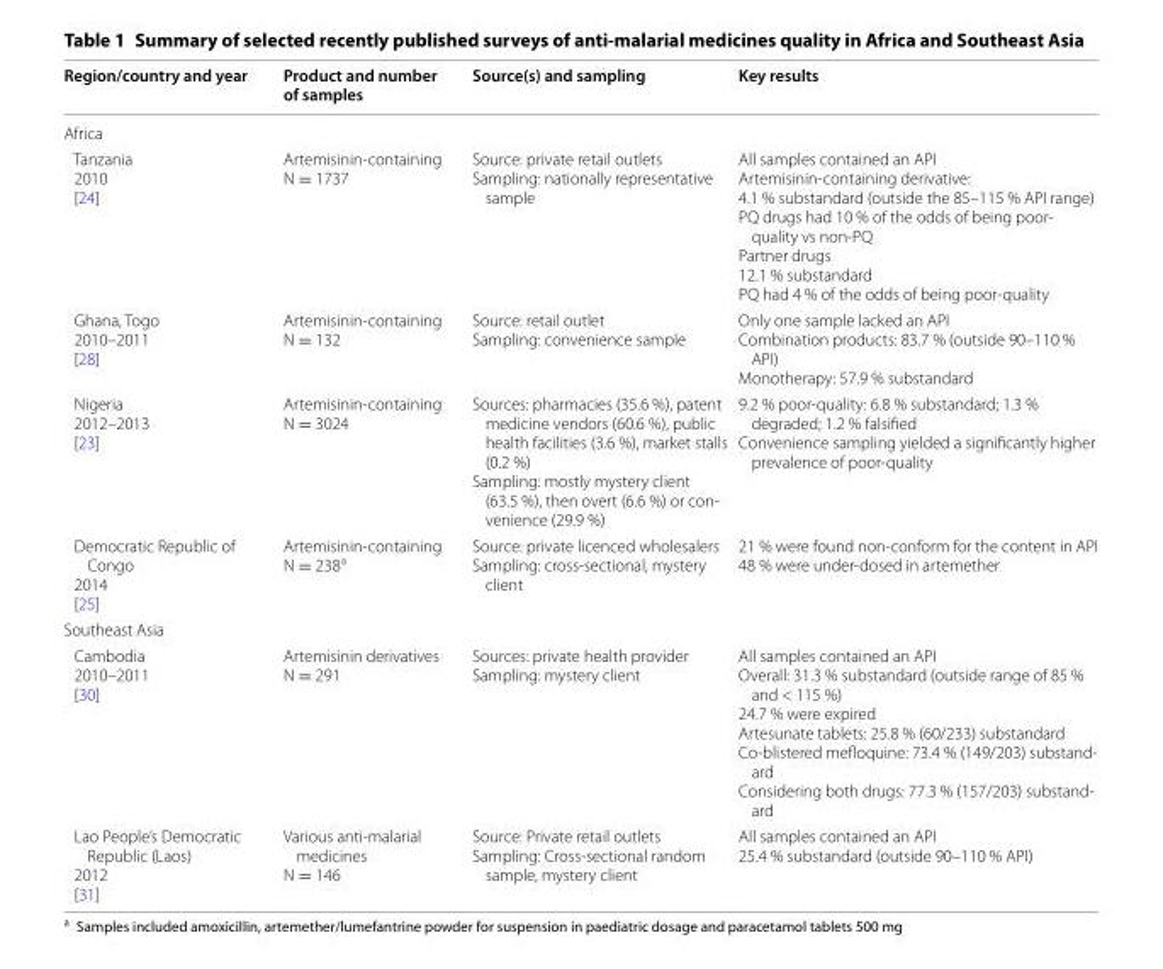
<table><thead><tr><td>Region/country and year</td><td>Product and number of samples</td><td>Source(s) and sampling</td><td>Key results</td></tr></thead><tbody><tr><td colspan="4">Africa</td></tr><tr><td>Tanzania 2010 [24]</td><td>Artemisinin-containing N = 1737</td><td>Source: private retail outlets Sampling: nationally representative sample</td><td>All samples contained an API Artemisinin-containing derivative: 4.1 % substandard (outside the 85–115 % API range) PQ drugs had 10 % of the odds of being poor- quality vs non-PQ Partner drugs 12.1 % substandard PQ had 4 % of the odds of being poor-quality</td></tr><tr><td>Ghana, Togo 2010–2011 [28]</td><td>Artemisinin-containing N = 132</td><td>Source: retail outlet Sampling: convenience sample</td><td>Only one sample lacked an API Combination products: 83.7 % (outside 90–110 % API) Monotherapy: 57.9 % substandard</td></tr><tr><td>Nigeria 2012–2013 [23]</td><td>Artemisinin-containing N = 3024</td><td>Sources: pharmacies (35.6 %), patent medicine vendors (60.6 %), public health facilities (3.6 %), market stalls (0.2 %) Sampling: mostly mystery client (63.5 %), then overt (6.6 %) or con- venience (29.9 %)</td><td>9.2 % poor-quality: 6.8 % substandard; 1.3 % degraded; 1.2 % falsified Convenience sampling yielded a significantly higher prevalence of poor-quality</td></tr><tr><td>Democratic Republic of Congo 2014 [25]</td><td>Artemisinin-containing N = 238<sup>a</sup></td><td>Source: private licenced wholesalers Sampling: cross-sectional, mystery client</td><td>21 % were found non-conform for the content in API 48 % were under-dosed in artemether</td></tr><tr><td colspan="4">Southeast Asia</td></tr><tr><td>Cambodia 2010–2011 [30]</td><td>Artemisinin derivatives N = 291</td><td>Sources: private health provider Sampling: mystery client</td><td>All samples contained an API Overall: 31.3 % substandard (outside range of 85 % and &lt; 115 %) 24.7 % were expired Artesunate tablets: 25.8 % (60/233) substandard Co-blistered mefloquine: 73.4 % (149/203) substand- ard Considering both drugs: 77.3 % (157/203) substand- ard</td></tr><tr><td>Lao People’s Democratic Republic (Laos) 2012 [31]</td><td>Various anti-malarial medicines N = 146</td><td>Source: Private retail outlets Sampling: Cross-sectional random sample, mystery client</td><td>All samples contained an API 25.4 % substandard (outside 90–110 % API)</td></tr></tbody></table>